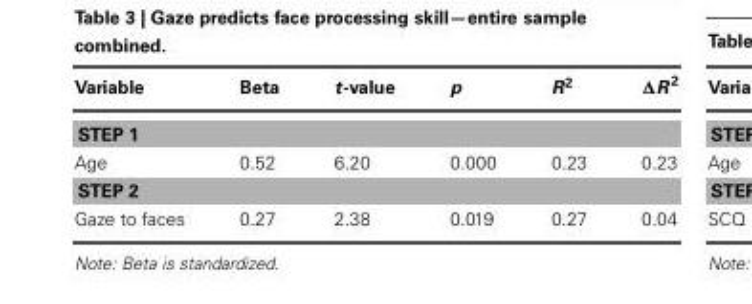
<table><thead><tr><td>Variable</td><td>Beta</td><td>t-value</td><td>p</td><td>R<sup>2</sup></td><td>ΔR <sup>2</sup></td></tr></thead><tbody><tr><td colspan="6">STEP 1</td></tr><tr><td>Age</td><td>0.52</td><td>6.20</td><td>0.000</td><td>0.23</td><td>0.23</td></tr><tr><td colspan="6">STEP 2</td></tr><tr><td>Gaze to faces</td><td>0.27</td><td>2.38</td><td>0.019</td><td>0.27</td><td>0.04</td></tr></tbody></table>